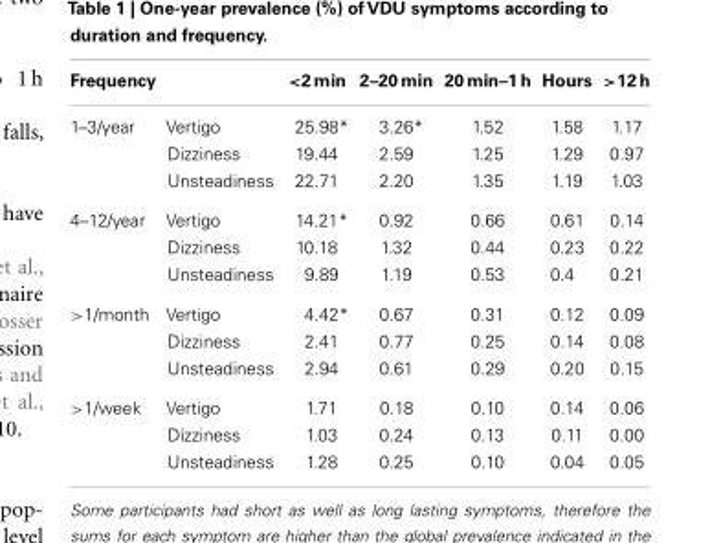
<table><thead><tr><td>Frequency</td><td></td><td>&lt;2 min</td><td>2–20 min</td><td>20 min–1 h</td><td>Hours</td><td>&gt;12 h</td></tr></thead><tbody><tr><td rowspan="3">1–3/year</td><td>Vertigo</td><td>25.98*</td><td>3.26*</td><td>1.52</td><td>1.58</td><td>1.17</td></tr><tr><td>Dizziness</td><td>19.44</td><td>2.59</td><td>1.25</td><td>1.29</td><td>0.97</td></tr><tr><td>Unsteadiness</td><td>22.71</td><td>2.20</td><td>1.35</td><td>1.19</td><td>1.03</td></tr><tr><td rowspan="3">4–12/year</td><td>Vertigo</td><td>14.21*</td><td>0.92</td><td>0.66</td><td>0.61</td><td>0.14</td></tr><tr><td>Dizziness</td><td>10.18</td><td>1.32</td><td>0.44</td><td>0.23</td><td>0.22</td></tr><tr><td>Unsteadiness</td><td>9.89</td><td>1.19</td><td>0.53</td><td>0.4</td><td>0.21</td></tr><tr><td rowspan="3">&gt;1/month</td><td>Vertigo</td><td>4.42*</td><td>0.67</td><td>0.31</td><td>0.12</td><td>0.09</td></tr><tr><td>Dizziness</td><td>2.41</td><td>0.77</td><td>0.25</td><td>0.14</td><td>0.08</td></tr><tr><td>Unsteadiness</td><td>2.94</td><td>0.61</td><td>0.29</td><td>0.20</td><td>0.15</td></tr><tr><td rowspan="3">&gt;1/week</td><td>Vertigo</td><td>1.71</td><td>0.18</td><td>0.10</td><td>0.14</td><td>0.06</td></tr><tr><td>Dizziness</td><td>1.03</td><td>0.24</td><td>0.13</td><td>0.11</td><td>0.00</td></tr><tr><td>Unsteadiness</td><td>1.28</td><td>0.25</td><td>0.10</td><td>0.04</td><td>0.05</td></tr></tbody></table>